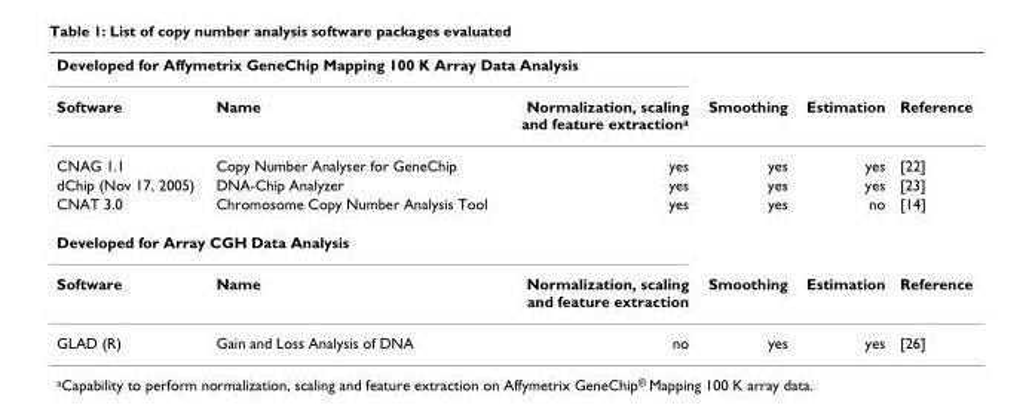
<table><thead><tr><td colspan="3">Developed for Affymetrix GeneChip Mapping 100 K Array Data Analysis</td><td rowspan="2">Smoothing</td><td rowspan="2">Estimation</td><td rowspan="2">Reference</td></tr><tr><td>Software</td><td>Name</td><td>Normalization, scaling and feature extraction<sup>a</sup></td></tr></thead><tbody><tr><td>CNAG 1.1</td><td>Copy Number Analyser for GeneChip</td><td>yes</td><td>yes</td><td>yes</td><td>[22]</td></tr><tr><td>dChip (Nov 17, 2005)</td><td>DNA-Chip Analyzer</td><td>yes</td><td>yes</td><td>yes</td><td>[23]</td></tr><tr><td>CNAT 3.0</td><td>Chromosome Copy Number Analysis Tool</td><td>yes</td><td>yes</td><td>no</td><td>[14]</td></tr><tr><td colspan="6">Developed for Array CGH Data Analysis</td></tr><tr><td>Software</td><td>Name</td><td>Normalization, scaling and feature extraction</td><td>Smoothing</td><td>Estimation</td><td>Reference</td></tr><tr><td>GLAD (R)</td><td>Gain and Loss Analysis of DNA</td><td>no</td><td>yes</td><td>yes</td><td>[26]</td></tr></tbody></table>